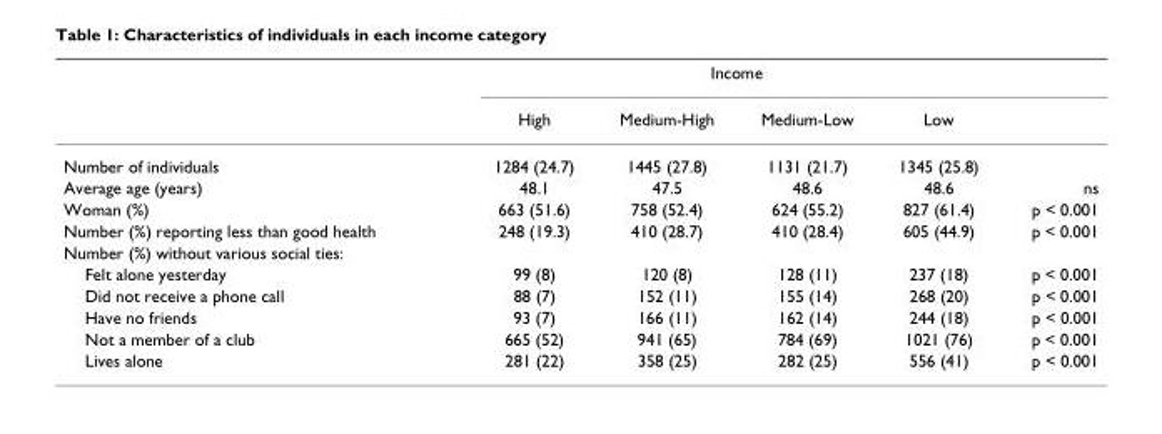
<table><thead><tr><td rowspan="2"></td><td colspan="4">Income</td><td rowspan="2"></td></tr><tr><td>High</td><td>Medium-High</td><td>Medium-Low</td><td>Low</td></tr></thead><tbody><tr><td>Number of individuals</td><td>1284 (24.7)</td><td>1445 (27.8)</td><td>1131 (21.7)</td><td>1345 (25.8)</td><td></td></tr><tr><td>Average age (years)</td><td>48.1</td><td>47.5</td><td>48.6</td><td>48.6</td><td>ns</td></tr><tr><td>Woman (%)</td><td>663 (51.6)</td><td>758 (52.4)</td><td>624 (55.2)</td><td>827 (61.4)</td><td>p &lt; 0.001</td></tr><tr><td>Number (%) reporting less than good health</td><td>248 (19.3)</td><td>410 (28.7)</td><td>410 (28.4)</td><td>605 (44.9)</td><td>p &lt; 0.001</td></tr><tr><td colspan="6">Number (%) without various social ties:</td></tr><tr><td>Felt alone yesterday</td><td>99 (8)</td><td>120 (8)</td><td>128 (11)</td><td>237 (18)</td><td>p &lt; 0.001</td></tr><tr><td>Did not receive a phone call</td><td>88 (7)</td><td>152 (11)</td><td>155 (14)</td><td>268 (20)</td><td>p &lt; 0.001</td></tr><tr><td>Have no friends</td><td>93 (7)</td><td>166 (11)</td><td>162 (14)</td><td>244 (18)</td><td>p &lt; 0.001</td></tr><tr><td>Not a member of a club</td><td>665 (52)</td><td>941 (65)</td><td>784 (69)</td><td>1021 (76)</td><td>p &lt; 0.001</td></tr><tr><td>Lives alone</td><td>281 (22)</td><td>358 (25)</td><td>282 (25)</td><td>556 (41)</td><td>p &lt; 0.001</td></tr></tbody></table>